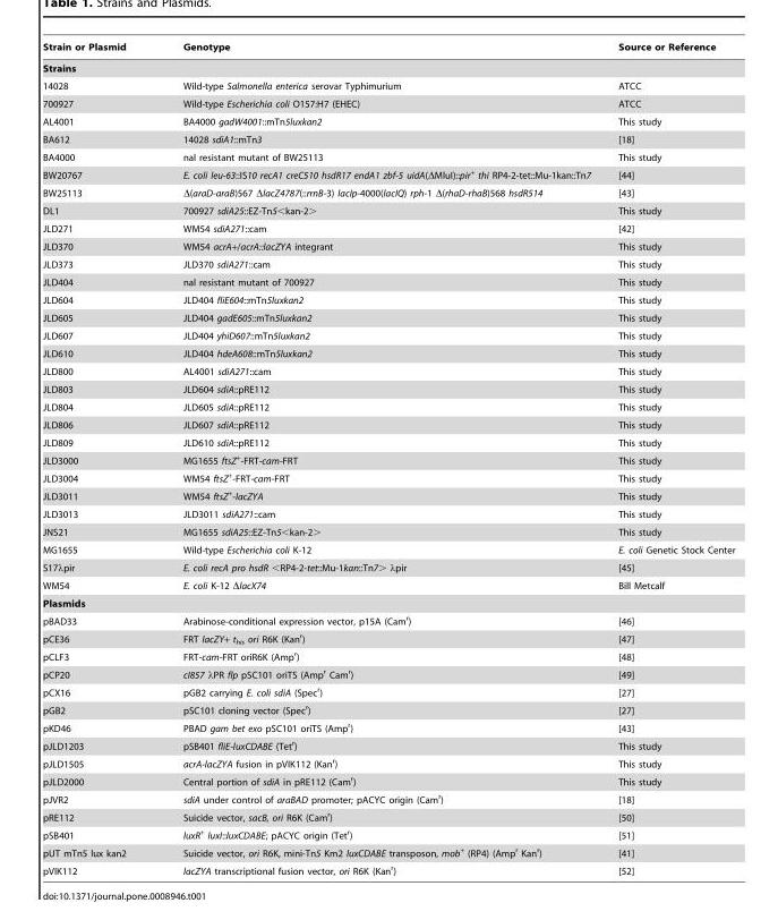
<table><thead><tr><td>Strain or Plasmid</td><td>Genotype</td><td>Source or Reference</td></tr></thead><tbody><tr><td colspan="3">Strains</td></tr><tr><td>14028</td><td>Wild-type Salmonella enterica serovar Typhimurium</td><td>ATCC</td></tr><tr><td>700927</td><td>Wild-type Escherichia coli O157:H7 (EHEC)</td><td>ATCC</td></tr><tr><td>AL4001</td><td>BA4000 gadW4001::mTn5luxkan2</td><td>This study</td></tr><tr><td>BA612</td><td>14028 sdiA1::mTn3</td><td>[18]</td></tr><tr><td>BA4000</td><td>nal resistant mutant of BW25113</td><td>This study</td></tr><tr><td>BW20767</td><td>E. coli leu-63::IS10 recA1 creC510 hsdR17 endA1 zbf-5 uidA(ΔMluI)::pir<sup>+</sup> thi RP4-2-tet::Mu-1kan::Tn7</td><td>[44]</td></tr><tr><td>BW25113</td><td>Δ(araD-araB)567 ΔlacZ4787(::rrnB-3) lacIp-4000(lacIQ) rph-1 Δ(rhaD-rhaB)568 hsdR514</td><td>[43]</td></tr><tr><td>DL1</td><td>700927 sdiA25::EZ-Tn5&lt;kan-2&gt;</td><td>This study</td></tr><tr><td>JLD271</td><td>WM54 sdiA271::cam</td><td>[42]</td></tr><tr><td>JLD370</td><td>WM54 acrA+/acrA::lacZYA integrant</td><td>This study</td></tr><tr><td>JLD373</td><td>JLD370 sdiA271::cam</td><td>This study</td></tr><tr><td>JLD404</td><td>nal resistant mutant of 700927</td><td>This study</td></tr><tr><td>JLD604</td><td>JLD404 fliE604::mTn5luxkan2</td><td>This study</td></tr><tr><td>JLD605</td><td>JLD404 gadE605::mTn5luxkan2</td><td>This study</td></tr><tr><td>JLD607</td><td>JLD404 yhiD607::mTn5luxkan2</td><td>This study</td></tr><tr><td>JLD610</td><td>JLD404 hdeA608::mTn5luxkan2</td><td>This study</td></tr><tr><td>JLD800</td><td>AL4001 sdiA271::cam</td><td>This study</td></tr><tr><td>JLD803</td><td>JLD604 sdiA::pRE112</td><td>This study</td></tr><tr><td>JLD804</td><td>JLD605 sdiA::pRE112</td><td>This study</td></tr><tr><td>JLD806</td><td>JLD607 sdiA::pRE112</td><td>This study</td></tr><tr><td>JLD809</td><td>JLD610 sdiA::pRE112</td><td>This study</td></tr><tr><td>JLD3000</td><td>MG1655 ftsZ<sup>+</sup>-FRT-cam-FRT</td><td>This study</td></tr><tr><td>JLD3004</td><td>WM54 ftsZ<sup>+</sup>-FRT-cam-FRT</td><td>This study</td></tr><tr><td>JLD3011</td><td>WM54 ftsZ<sup>+</sup>-lacZYA</td><td>This study</td></tr><tr><td>JLD3013</td><td>JLD3011 sdiA271::cam</td><td>This study</td></tr><tr><td>JNS21</td><td>MG1655 sdiA25::EZ-Tn5&lt;kan-2&gt;</td><td>This study</td></tr><tr><td>MG1655</td><td>Wild-type Escherichia coli K-12</td><td>E. coli Genetic Stock Center</td></tr><tr><td>S17λpir</td><td>E. coli recA pro hsdR &lt;RP4-2-tet::Mu-1kan::Tn7&gt; λpir</td><td>[45]</td></tr><tr><td>WM54</td><td>E. coli K-12 ΔlacX74</td><td>Bill Metcalf</td></tr><tr><td colspan="3">Plasmids</td></tr><tr><td>pBAD33</td><td>Arabinose-conditional expression vector, p15A (Cam<sup>r</sup>)</td><td>[46]</td></tr><tr><td>pCE36</td><td>FRT lacZY+ t<sub>his</sub> ori R6K (Kan<sup>r</sup>)</td><td>[47]</td></tr><tr><td>pCLF3</td><td>FRT-cam-FRT oriR6K (Amp<sup>r</sup>)</td><td>[48]</td></tr><tr><td>pCP20</td><td>cI857 λPR flp pSC101 oriTS (Amp<sup>r</sup> Cam<sup>r</sup>)</td><td>[49]</td></tr><tr><td>pCX16</td><td>pGB2 carrying E. coli sdiA (Spec<sup>r</sup>)</td><td>[27]</td></tr><tr><td>pGB2</td><td>pSC101 cloning vector (Spec<sup>r</sup>)</td><td>[27]</td></tr><tr><td>pKD46</td><td>PBAD gam bet exo pSC101 oriTS (Amp<sup>r</sup>)</td><td>[43]</td></tr><tr><td>pJLD1203</td><td>pSB401 fliE-luxCDABE (Tet<sup>r</sup>)</td><td>This study</td></tr><tr><td>pJLD1505</td><td>acrA-lacZYA fusion in pVIK112 (Kan<sup>r</sup>)</td><td>This study</td></tr><tr><td>pJLD2000</td><td>Central portion of sdiA in pRE112 (Cam<sup>r</sup>)</td><td>This study</td></tr><tr><td>pJVR2</td><td>sdiA under control of araBAD promoter; pACYC origin (Cam<sup>r</sup>)</td><td>[18]</td></tr><tr><td>pRE112</td><td>Suicide vector, sacB, ori R6K (Cam<sup>r</sup>)</td><td>[50]</td></tr><tr><td>pSB401</td><td>luxR<sup>+</sup> luxI::luxCDABE; pACYC origin (Tet<sup>r</sup>)</td><td>[51]</td></tr><tr><td>pUT mTn5 lux kan2</td><td>Suicide vector, ori R6K, mini-Tn5 Km2 luxCDABE transposon, mob<sup>+</sup> (RP4) (Amp<sup>r</sup> Kan<sup>r</sup>)</td><td>[41]</td></tr><tr><td>pVIK112</td><td>lacZYA transcriptional fusion vector, ori R6K (Kan<sup>r</sup>)</td><td>[52]</td></tr></tbody></table>